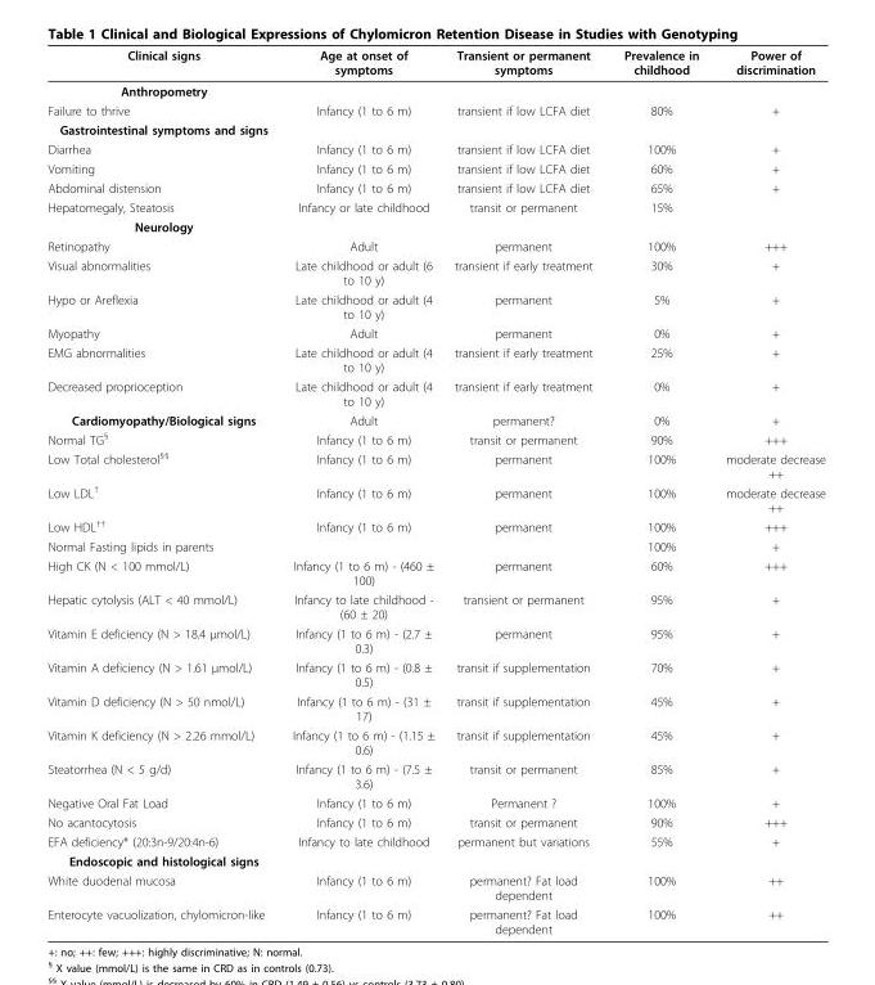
<table><thead><tr><td>Clinical signs</td><td>Age at onset of symptoms</td><td>Transient or permanent symptoms</td><td>Prevalence in childhood</td><td>Power of discrimination</td></tr></thead><tbody><tr><td colspan="5">Anthropometry</td></tr><tr><td>Failure to thrive</td><td>Infancy (1 to 6 m)</td><td>transient if low LCFA diet</td><td>80%</td><td>+</td></tr><tr><td colspan="5">Gastrointestinal symptoms and signs</td></tr><tr><td>Diarrhea</td><td>Infancy (1 to 6 m)</td><td>transient if low LCFA diet</td><td>100%</td><td>+</td></tr><tr><td>Vomiting</td><td>Infancy (1 to 6 m)</td><td>transient if low LCFA diet</td><td>60%</td><td>+</td></tr><tr><td>Abdominal distension</td><td>Infancy (1 to 6 m)</td><td>transient if low LCFA diet</td><td>65%</td><td>+</td></tr><tr><td>Hepatomegaly, Steatosis</td><td>Infancy or late childhood</td><td>transit or permanent</td><td>15%</td><td></td></tr><tr><td colspan="5">Neurology</td></tr><tr><td>Retinopathy</td><td>Adult</td><td>permanent</td><td>100%</td><td>+++</td></tr><tr><td>Visual abnormalities</td><td>Late childhood or adult (6 to 10 y)</td><td>transient if early treatment</td><td>30%</td><td>+</td></tr><tr><td>Hypo or Areflexia</td><td>Late childhood or adult (4 to 10 y)</td><td>permanent</td><td>5%</td><td>+</td></tr><tr><td>Myopathy</td><td>Adult</td><td>permanent</td><td>0%</td><td>+</td></tr><tr><td>EMG abnormalities</td><td>Late childhood or adult (4 to 10 y)</td><td>transient if early treatment</td><td>25%</td><td>+</td></tr><tr><td>Decreased proprioception</td><td>Late childhood or adult (4 to 10 y)</td><td>transient if early treatment</td><td>0%</td><td>+</td></tr><tr><td>Cardiomyopathy/Biological signs</td><td>Adult</td><td>permanent?</td><td>0%</td><td>+</td></tr><tr><td>Normal TG<sup>§</sup></td><td>Infancy (1 to 6 m)</td><td>transit or permanent</td><td>90%</td><td>+++</td></tr><tr><td>Low Total cholesterol<sup>§§</sup></td><td>Infancy (1 to 6 m)</td><td>permanent</td><td>100%</td><td>moderate decrease ++</td></tr><tr><td>Low LDL<sup>†</sup></td><td>Infancy (1 to 6 m)</td><td>permanent</td><td>100%</td><td>moderate decrease ++</td></tr><tr><td>Low HDL<sup>††</sup></td><td>Infancy (1 to 6 m)</td><td>permanent</td><td>100%</td><td>+++</td></tr><tr><td>Normal Fasting lipids in parents</td><td></td><td></td><td>100%</td><td>+</td></tr><tr><td>High CK (N &lt; 100 mmol/L)</td><td>Infancy (1 to 6 m) - (460 ± 100)</td><td>permanent</td><td>60%</td><td>+++</td></tr><tr><td>Hepatic cytolysis (ALT &lt; 40 mmol/L)</td><td>Infancy to late childhood - (60 ± 20)</td><td>transient or permanent</td><td>95%</td><td>+</td></tr><tr><td>Vitamin E deficiency (N &gt; 18.4 μmol/L)</td><td>Infancy (1 to 6 m) - (2.7 ± 0.3)</td><td>permanent</td><td>95%</td><td>+</td></tr><tr><td>Vitamin A deficiency (N &gt; 1.61 μmol/L)</td><td>Infancy (1 to 6 m) - (0.8 ± 0.5)</td><td>transit if supplementation</td><td>70%</td><td>+</td></tr><tr><td>Vitamin D deficiency (N &gt; 50 nmol/L)</td><td>Infancy (1 to 6 m) - (31 ± 17)</td><td>transit if supplementation</td><td>45%</td><td>+</td></tr><tr><td>Vitamin K deficiency (N &gt; 2.26 mmol/L)</td><td>Infancy (1 to 6 m) - (1.15 ± 0.6)</td><td>transit if supplementation</td><td>45%</td><td>+</td></tr><tr><td>Steatorrhea (N &lt; 5 g/d)</td><td>Infancy (1 to 6 m) - (7.5 ± 3.6)</td><td>transit or permanent</td><td>85%</td><td>+</td></tr><tr><td>Negative Oral Fat Load</td><td>Infancy (1 to 6 m)</td><td>Permanent ?</td><td>100%</td><td>+</td></tr><tr><td>No acantocytosis</td><td>Infancy (1 to 6 m)</td><td>transit or permanent</td><td>90%</td><td>+++</td></tr><tr><td>EFA deficiency* (20:3n-9/20:4n-6)</td><td>Infancy to late childhood</td><td>permanent but variations</td><td>55%</td><td>+</td></tr><tr><td colspan="5">Endoscopic and histological signs</td></tr><tr><td>White duodenal mucosa</td><td>Infancy (1 to 6 m)</td><td>permanent? Fat load dependent</td><td>100%</td><td>++</td></tr><tr><td>Enterocyte vacuolization, chylomicron-like</td><td>Infancy (1 to 6 m)</td><td>permanent? Fat load dependent</td><td>100%</td><td>++</td></tr></tbody></table>